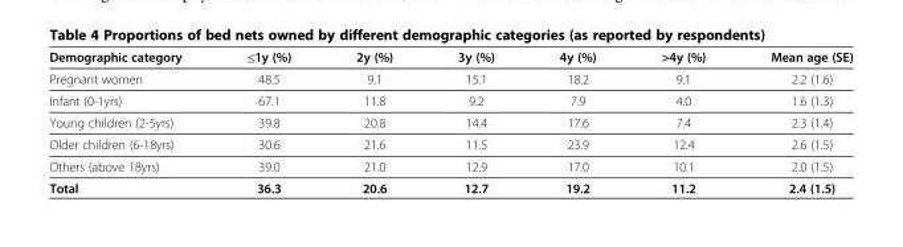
<table><thead><tr><td>Demographic category</td><td>≤1y (%)</td><td>2y (%)</td><td>3y (%)</td><td>4y (%)</td><td>&gt;4y (%)</td><td>Mean age (SE)</td></tr></thead><tbody><tr><td>Pregnant women</td><td>48.5</td><td>9.1</td><td>15.1</td><td>18.2</td><td>9.1</td><td>2.2 (1.6)</td></tr><tr><td>Infant (0-1yrs)</td><td>67.1</td><td>11.8</td><td>9.2</td><td>7.9</td><td>4.0</td><td>1.6 (1.3)</td></tr><tr><td>Young children (2-5yrs)</td><td>39.8</td><td>20.8</td><td>14.4</td><td>17.6</td><td>7.4</td><td>2.3 (1.4)</td></tr><tr><td>Older children (6-18yrs)</td><td>30.6</td><td>21.6</td><td>11.5</td><td>23.9</td><td>12.4</td><td>2.6 (1.5)</td></tr><tr><td>Others (above 18yrs)</td><td>39.0</td><td>21.0</td><td>12.9</td><td>17.0</td><td>10.1</td><td>2.0 (1.5)</td></tr><tr><td>Total</td><td>36.3</td><td>20.6</td><td>12.7</td><td>19.2</td><td>11.2</td><td>2.4 (1.5)</td></tr></tbody></table>